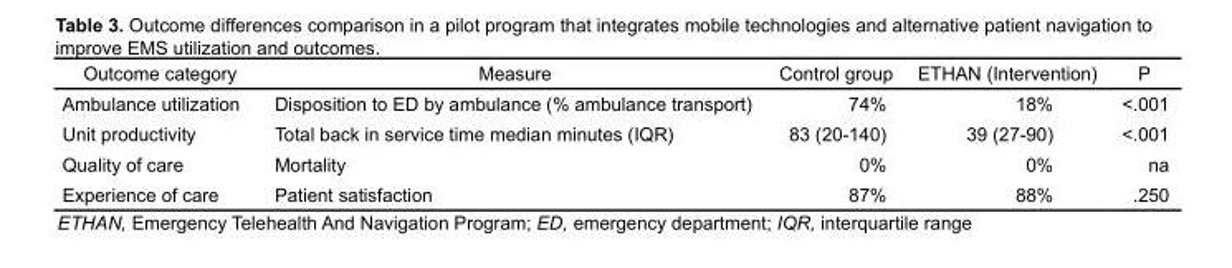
<table><thead><tr><td>Outcome category</td><td>Measure</td><td>Control group</td><td>ETHAN (Intervention)</td><td>P</td></tr></thead><tbody><tr><td>Ambulance utilization</td><td>Disposition to ED by ambulance (% ambulance transport)</td><td>74%</td><td>18%</td><td>&lt;.001</td></tr><tr><td>Unit productivity</td><td>Total back in service time median minutes (IQR)</td><td>83 (20-140)</td><td>39 (27-90)</td><td>&lt;.001</td></tr><tr><td>Quality of care</td><td>Mortality</td><td>0%</td><td>0%</td><td>na</td></tr><tr><td>Experience of care</td><td>Patient satisfaction</td><td>87%</td><td>88%</td><td>.250</td></tr></tbody></table>